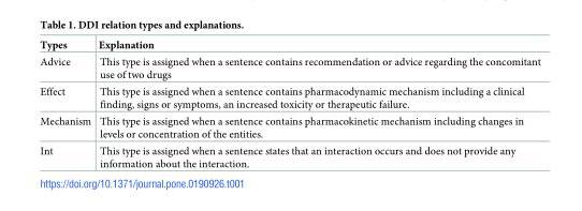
<table><thead><tr><td>Types</td><td>Explanation</td></tr></thead><tbody><tr><td>Advice</td><td>This type is assigned when a sentence contains recommendation or advice regarding the concomitant use of two drugs</td></tr><tr><td>Effect</td><td>This type is assigned when a sentence contains pharmacodynamic mechanism including a clinical finding, signs or symptoms, an increased toxicity or therapeutic failure.</td></tr><tr><td>Mechanism</td><td>This type is assigned when a sentence contains pharmacokinetic mechanism including changes in levels or concentration of the entities.</td></tr><tr><td>Int</td><td>This type is assigned when a sentence states that an interaction occurs and does not provide any information about the interaction.</td></tr></tbody></table>